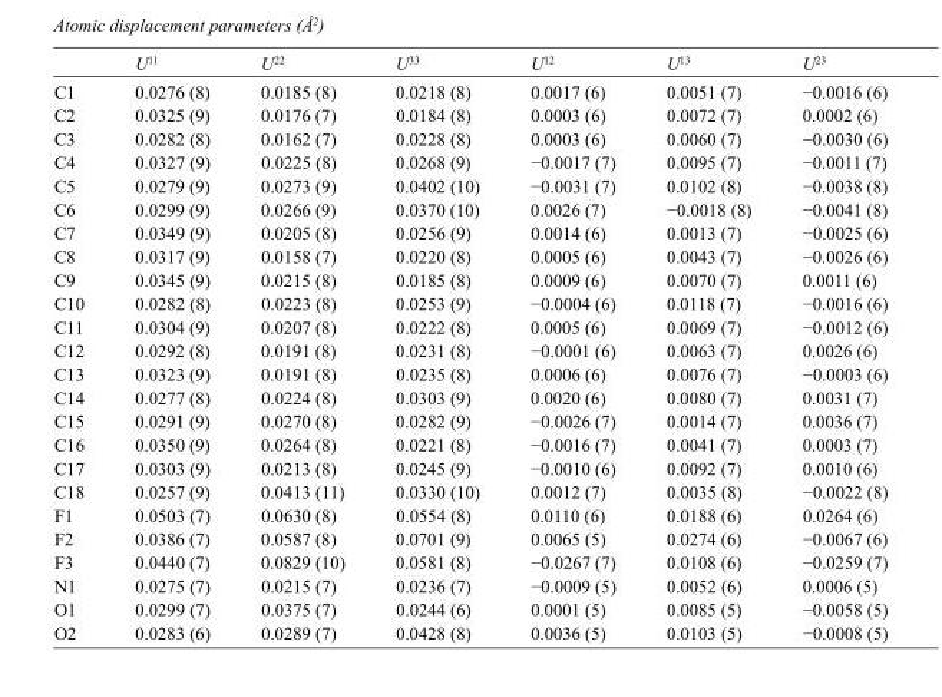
<table><thead><tr><td></td><td>U<sup>11</sup></td><td>U<sup>22</sup></td><td>U<sup>33</sup></td><td>U<sup>12</sup></td><td>U<sup>13</sup></td><td>U<sup>23</sup></td></tr></thead><tbody><tr><td>C1</td><td>0.0276 (8)</td><td>0.0185 (8)</td><td>0.0218 (8)</td><td>0.0017 (6)</td><td>0.0051 (7)</td><td>−0.0016 (6)</td></tr><tr><td>C2</td><td>0.0325 (9)</td><td>0.0176 (7)</td><td>0.0184 (8)</td><td>0.0003 (6)</td><td>0.0072 (7)</td><td>0.0002 (6)</td></tr><tr><td>C3</td><td>0.0282 (8)</td><td>0.0162 (7)</td><td>0.0228 (8)</td><td>0.0003 (6)</td><td>0.0060 (7)</td><td>−0.0030 (6)</td></tr><tr><td>C4</td><td>0.0327 (9)</td><td>0.0225 (8)</td><td>0.0268 (9)</td><td>−0.0017 (7)</td><td>0.0095 (7)</td><td>−0.0011 (7)</td></tr><tr><td>C5</td><td>0.0279 (9)</td><td>0.0273 (9)</td><td>0.0402 (10)</td><td>−0.0031 (7)</td><td>0.0102 (8)</td><td>−0.0038 (8)</td></tr><tr><td>C6</td><td>0.0299 (9)</td><td>0.0266 (9)</td><td>0.0370 (10)</td><td>0.0026 (7)</td><td>−0.0018 (8)</td><td>−0.0041 (8)</td></tr><tr><td>C7</td><td>0.0349 (9)</td><td>0.0205 (8)</td><td>0.0256 (9)</td><td>0.0014 (6)</td><td>0.0013 (7)</td><td>−0.0025 (6)</td></tr><tr><td>C8</td><td>0.0317 (9)</td><td>0.0158 (7)</td><td>0.0220 (8)</td><td>0.0005 (6)</td><td>0.0043 (7)</td><td>−0.0026 (6)</td></tr><tr><td>C9</td><td>0.0345 (9)</td><td>0.0215 (8)</td><td>0.0185 (8)</td><td>0.0009 (6)</td><td>0.0070 (7)</td><td>0.0011 (6)</td></tr><tr><td>C10</td><td>0.0282 (8)</td><td>0.0223 (8)</td><td>0.0253 (9)</td><td>−0.0004 (6)</td><td>0.0118 (7)</td><td>−0.0016 (6)</td></tr><tr><td>C11</td><td>0.0304 (9)</td><td>0.0207 (8)</td><td>0.0222 (8)</td><td>0.0005 (6)</td><td>0.0069 (7)</td><td>−0.0012 (6)</td></tr><tr><td>C12</td><td>0.0292 (8)</td><td>0.0191 (8)</td><td>0.0231 (8)</td><td>−0.0001 (6)</td><td>0.0063 (7)</td><td>0.0026 (6)</td></tr><tr><td>C13</td><td>0.0323 (9)</td><td>0.0191 (8)</td><td>0.0235 (8)</td><td>0.0006 (6)</td><td>0.0076 (7)</td><td>−0.0003 (6)</td></tr><tr><td>C14</td><td>0.0277 (8)</td><td>0.0224 (8)</td><td>0.0303 (9)</td><td>0.0020 (6)</td><td>0.0080 (7)</td><td>0.0031 (7)</td></tr><tr><td>C15</td><td>0.0291 (9)</td><td>0.0270 (8)</td><td>0.0282 (9)</td><td>−0.0026 (7)</td><td>0.0014 (7)</td><td>0.0036 (7)</td></tr><tr><td>C16</td><td>0.0350 (9)</td><td>0.0264 (8)</td><td>0.0221 (8)</td><td>−0.0016 (7)</td><td>0.0041 (7)</td><td>0.0003 (7)</td></tr><tr><td>C17</td><td>0.0303 (9)</td><td>0.0213 (8)</td><td>0.0245 (9)</td><td>−0.0010 (6)</td><td>0.0092 (7)</td><td>0.0010 (6)</td></tr><tr><td>C18</td><td>0.0257 (9)</td><td>0.0413 (11)</td><td>0.0330 (10)</td><td>0.0012 (7)</td><td>0.0035 (8)</td><td>−0.0022 (8)</td></tr><tr><td>F1</td><td>0.0503 (7)</td><td>0.0630 (8)</td><td>0.0554 (8)</td><td>0.0110 (6)</td><td>0.0188 (6)</td><td>0.0264 (6)</td></tr><tr><td>F2</td><td>0.0386 (7)</td><td>0.0587 (8)</td><td>0.0701 (9)</td><td>0.0065 (5)</td><td>0.0274 (6)</td><td>−0.0067 (6)</td></tr><tr><td>F3</td><td>0.0440 (7)</td><td>0.0829 (10)</td><td>0.0581 (8)</td><td>−0.0267 (7)</td><td>0.0108 (6)</td><td>−0.0259 (7)</td></tr><tr><td>N1</td><td>0.0275 (7)</td><td>0.0215 (7)</td><td>0.0236 (7)</td><td>−0.0009 (5)</td><td>0.0052 (6)</td><td>0.0006 (5)</td></tr><tr><td>O1</td><td>0.0299 (7)</td><td>0.0375 (7)</td><td>0.0244 (6)</td><td>0.0001 (5)</td><td>0.0085 (5)</td><td>−0.0058 (5)</td></tr><tr><td>O2</td><td>0.0283 (6)</td><td>0.0289 (7)</td><td>0.0428 (8)</td><td>0.0036 (5)</td><td>0.0103 (5)</td><td>−0.0008 (5)</td></tr></tbody></table>